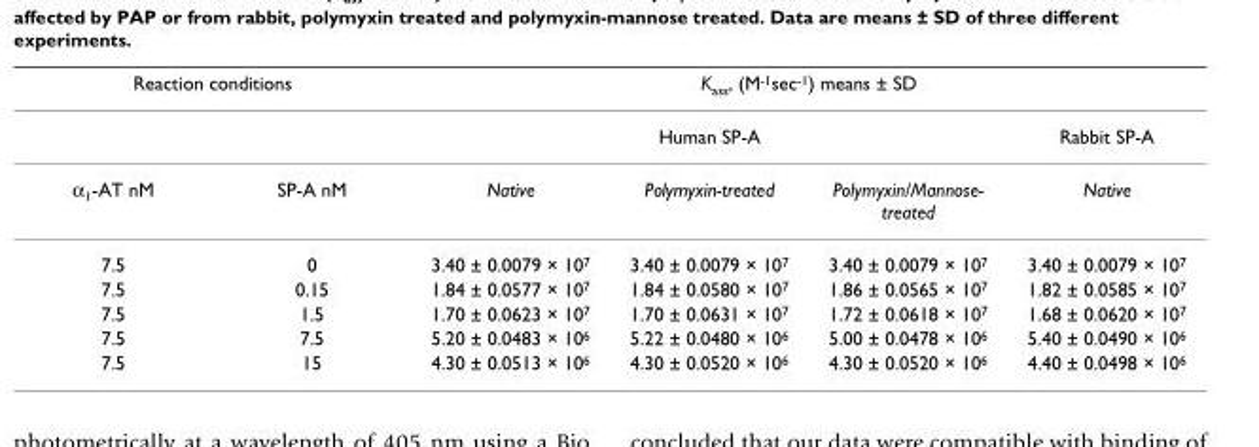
<table><thead><tr><td colspan="2">Reaction conditions</td><td colspan="4">Kass, (M-1sec-1) means ± SD</td></tr><tr><td rowspan="2">α<sub>1</sub>-AT nM</td><td rowspan="2">SP-A nM</td><td colspan="3">Human SP-A</td><td rowspan="2">Rabbit SP-A Native</td></tr><tr><td>Native</td><td>Polymyxin-treated</td><td>Polymyxin/Mannose- treated</td></tr></thead><tbody><tr><td>7.5</td><td>0</td><td>3.40 ± 0.0079 × 10<sup>7</sup></td><td>3.40 ± 0.0079 × 10<sup>7</sup></td><td>3.40 ± 0.0079 × 10<sup>7</sup></td><td>3.40 ± 0.0079 × 10<sup>7</sup></td></tr><tr><td>7.5</td><td>0.15</td><td>1.84 ± 0.0577 × 10<sup>7</sup></td><td>1.84 ± 0.0580 × 10<sup>7</sup></td><td>1.86 ± 0.0565 × 10<sup>7</sup></td><td>1.82 ± 0.0585 × 10<sup>7</sup></td></tr><tr><td>7.5</td><td>1.5</td><td>1.70 ± 0.0623 × 10<sup>7</sup></td><td>1.70 ± 0.0631 × 10<sup>7</sup></td><td>1.72 ± 0.0618 × 10<sup>7</sup></td><td>1.68 ± 0.0620 × 10<sup>7</sup></td></tr><tr><td>7.5</td><td>7.5</td><td>5.20 ± 0.0483 × 10<sup>6</sup></td><td>5.22 ± 0.0480 × 10<sup>6</sup></td><td>5.00 ± 0.0478 × 10<sup>6</sup></td><td>5.40 ± 0.0490 × 10<sup>6</sup></td></tr><tr><td>7.5</td><td>15</td><td>4.30 ± 0.0513 × 10<sup>6</sup></td><td>4.30 ± 0.0520 × 10<sup>6</sup></td><td>4.30 ± 0.0520 × 10<sup>6</sup></td><td>4.40 ± 0.0498 × 10<sup>6</sup></td></tr></tbody></table>